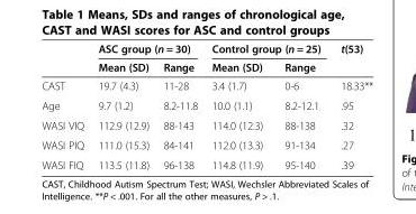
<table><thead><tr><td rowspan="2"></td><td colspan="2">ASC group (n = 30)</td><td colspan="2">Control group (n = 25)</td><td rowspan="2">t(53)</td></tr><tr><td>Mean (SD)</td><td>Range</td><td>Mean (SD)</td><td>Range</td></tr></thead><tbody><tr><td>CAST</td><td>19.7 (4.3)</td><td>11-28</td><td>3.4 (1.7)</td><td>0-6</td><td>18.33**</td></tr><tr><td>Age</td><td>9.7 (1.2)</td><td>8.2-11.8</td><td>10.0 (1.1)</td><td>8.2-12.1</td><td>.95</td></tr><tr><td>WASI VIQ</td><td>112.9 (12.9)</td><td>88-143</td><td>114.0 (12.3)</td><td>88-138</td><td>.32</td></tr><tr><td>WASI PIQ</td><td>111.0 (15.3)</td><td>84-141</td><td>112.0 (13.3)</td><td>91-134</td><td>.27</td></tr><tr><td>WASI FIQ</td><td>113.5 (11.8)</td><td>96-138</td><td>114.8 (11.9)</td><td>95-140</td><td>.39</td></tr></tbody></table>